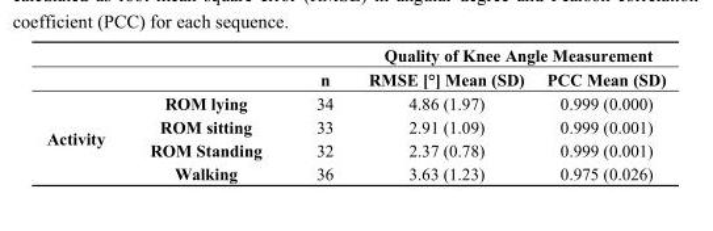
<table><thead><tr><td rowspan="2"></td><td rowspan="2"></td><td rowspan="2">n</td><td colspan="2">Quality of Knee Angle Measurement</td></tr><tr><td>RMSE [°] Mean (SD)</td><td>PCC Mean (SD)</td></tr></thead><tbody><tr><td rowspan="4">Activity</td><td>ROM lying</td><td>34</td><td>4.86 (1.97)</td><td>0.999 (0.000)</td></tr><tr><td>ROM sitting</td><td>33</td><td>2.91 (1.09)</td><td>0.999 (0.001)</td></tr><tr><td>ROM Standing</td><td>32</td><td>2.37 (0.78)</td><td>0.999 (0.001)</td></tr><tr><td>Walking</td><td>36</td><td>3.63 (1.23)</td><td>0.975 (0.026)</td></tr></tbody></table>